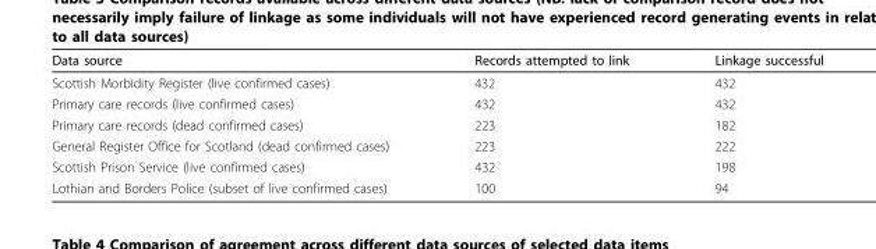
<table><thead><tr><td>Data source</td><td>Records attempted to link</td><td>Linkage successful</td></tr></thead><tbody><tr><td>Scottish Morbidity Register (live confirmed cases)</td><td>432</td><td>432</td></tr><tr><td>Primary care records (live confirmed cases)</td><td>432</td><td>432</td></tr><tr><td>Primary care records (dead confirmed cases)</td><td>223</td><td>182</td></tr><tr><td>General Register Office for Scotland (dead confirmed cases)</td><td>223</td><td>222</td></tr><tr><td>Scottish Prison Service (live confirmed cases)</td><td>432</td><td>198</td></tr><tr><td>Lothian and Borders Police (subset of live confirmed cases)</td><td>100</td><td>94</td></tr></tbody></table>